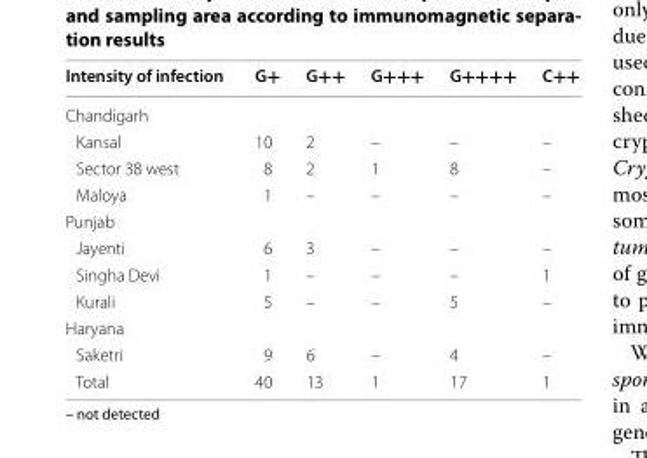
<table><thead><tr><td>Intensity of infection</td><td>G+</td><td>G++</td><td>G+++</td><td>G++++</td><td>C++</td></tr></thead><tbody><tr><td colspan="6">Chandigarh</td></tr><tr><td>Kansal</td><td>10</td><td>2</td><td>–</td><td>–</td><td>–</td></tr><tr><td>Sector 38 west</td><td>8</td><td>2</td><td>1</td><td>8</td><td>–</td></tr><tr><td>Maloya</td><td>1</td><td>–</td><td>–</td><td>–</td><td>–</td></tr><tr><td colspan="6">Punjab</td></tr><tr><td>Jayenti</td><td>6</td><td>3</td><td>–</td><td>–</td><td>–</td></tr><tr><td>Singha Devi</td><td>1</td><td>–</td><td>–</td><td>–</td><td>1</td></tr><tr><td>Kurali</td><td>5</td><td>–</td><td>–</td><td>5</td><td>–</td></tr><tr><td colspan="6">Haryana</td></tr><tr><td>Saketri</td><td>9</td><td>6</td><td>–</td><td>4</td><td>–</td></tr><tr><td>Total</td><td>40</td><td>13</td><td>1</td><td>17</td><td>1</td></tr></tbody></table>